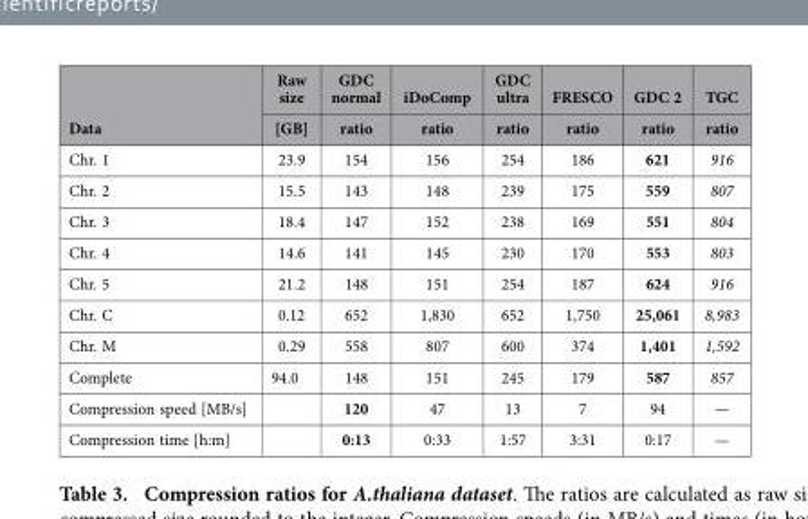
<table><thead><tr><td rowspan="2">Data</td><td rowspan="2">Raw size [GB]</td><td rowspan="2">GDC normal ratio</td><td rowspan="2">iDoComp ratio</td><td rowspan="2">GDC ultra ratio</td><td rowspan="2">FRESCO ratio</td><td rowspan="2">GDC 2 ratio</td><td rowspan="2">TGC ratio</td></tr><tr></tr></thead><tbody><tr><td>Chr. 1</td><td>23.9</td><td>154</td><td>156</td><td>254</td><td>186</td><td>621</td><td>916</td></tr><tr><td>Chr. 2</td><td>15.5</td><td>143</td><td>148</td><td>239</td><td>175</td><td>559</td><td>807</td></tr><tr><td>Chr. 3</td><td>18.4</td><td>147</td><td>152</td><td>238</td><td>169</td><td>551</td><td>804</td></tr><tr><td>Chr. 4</td><td>14.6</td><td>141</td><td>145</td><td>230</td><td>170</td><td>553</td><td>803</td></tr><tr><td>Chr. 5</td><td>21.2</td><td>148</td><td>151</td><td>254</td><td>187</td><td>624</td><td>916</td></tr><tr><td>Chr. C</td><td>0.12</td><td>652</td><td>1,830</td><td>652</td><td>1,750</td><td>25,061</td><td>8,983</td></tr><tr><td>Chr. M</td><td>0.29</td><td>558</td><td>807</td><td>600</td><td>374</td><td>1,401</td><td>1,592</td></tr><tr><td>Complete</td><td>94.0</td><td>148</td><td>151</td><td>245</td><td>179</td><td>587</td><td>857</td></tr><tr><td>Compression speed [MB/s]</td><td></td><td>120</td><td>47</td><td>13</td><td>7</td><td>94</td><td>—</td></tr><tr><td>Compression time [h:m]</td><td></td><td>0:13</td><td>0:33</td><td>1:57</td><td>3:31</td><td>0:17</td><td>—</td></tr></tbody></table>